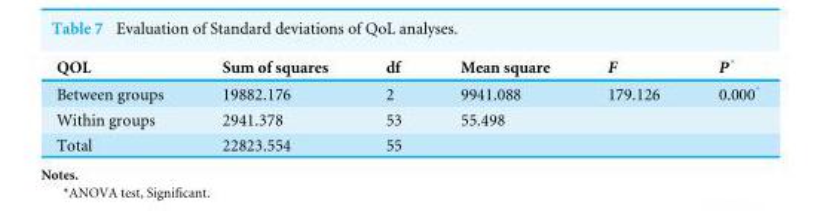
<table><thead><tr><td>QOL</td><td>Sum of squares</td><td>df</td><td>Mean square</td><td>F</td><td>P*</td></tr></thead><tbody><tr><td>Between groups</td><td>19882.176</td><td>2</td><td>9941.088</td><td>179.126</td><td>0.000*</td></tr><tr><td>Within groups</td><td>2941.378</td><td>53</td><td>55.498</td><td></td><td></td></tr><tr><td>Total</td><td>22823.554</td><td>55</td><td></td><td></td><td></td></tr></tbody></table>